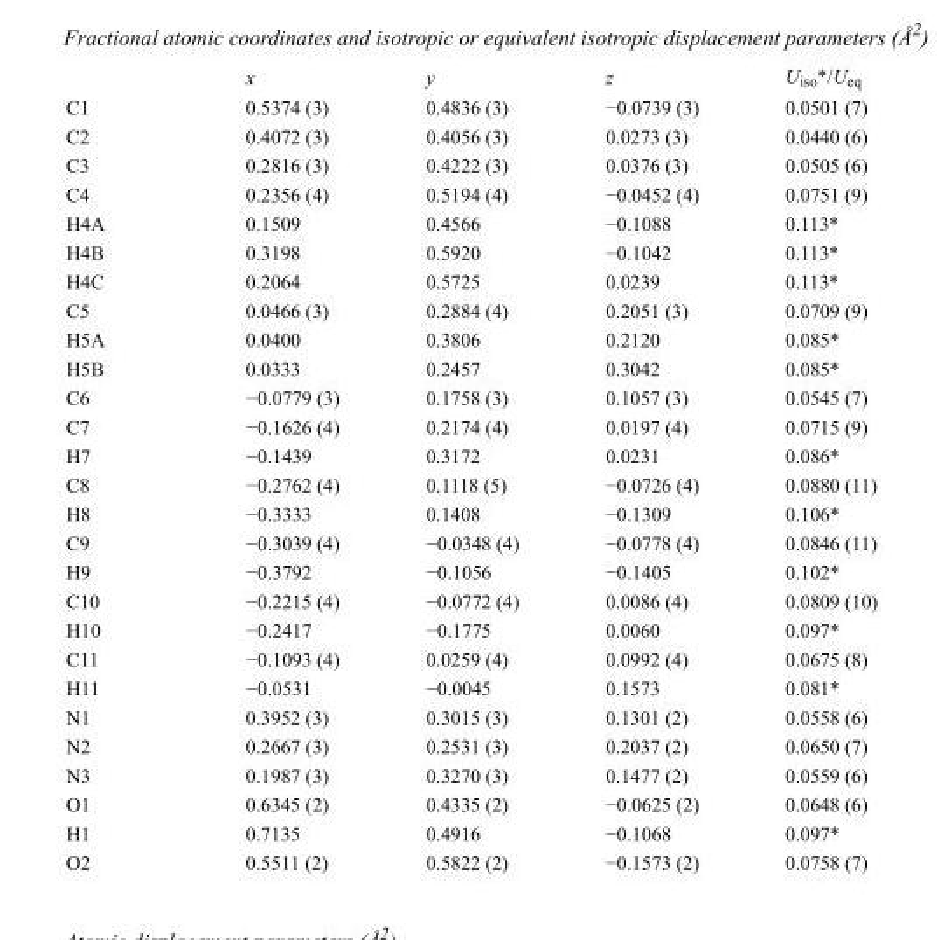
<table><thead><tr><td></td><td>x</td><td>y</td><td>z</td><td>U<sub>iso</sub>*/U<sub>eq</sub></td></tr></thead><tbody><tr><td>C1</td><td>0.5374 (3)</td><td>0.4836 (3)</td><td>−0.0739 (3)</td><td>0.0501 (7)</td></tr><tr><td>C2</td><td>0.4072 (3)</td><td>0.4056 (3)</td><td>0.0273 (3)</td><td>0.0440 (6)</td></tr><tr><td>C3</td><td>0.2816 (3)</td><td>0.4222 (3)</td><td>0.0376 (3)</td><td>0.0505 (6)</td></tr><tr><td>C4</td><td>0.2356 (4)</td><td>0.5194 (4)</td><td>−0.0452 (4)</td><td>0.0751 (9)</td></tr><tr><td>H4A</td><td>0.1509</td><td>0.4566</td><td>−0.1088</td><td>0.113*</td></tr><tr><td>H4B</td><td>0.3198</td><td>0.5920</td><td>−0.1042</td><td>0.113*</td></tr><tr><td>H4C</td><td>0.2064</td><td>0.5725</td><td>0.0239</td><td>0.113*</td></tr><tr><td>C5</td><td>0.0466 (3)</td><td>0.2884 (4)</td><td>0.2051 (3)</td><td>0.0709 (9)</td></tr><tr><td>H5A</td><td>0.0400</td><td>0.3806</td><td>0.2120</td><td>0.085*</td></tr><tr><td>H5B</td><td>0.0333</td><td>0.2457</td><td>0.3042</td><td>0.085*</td></tr><tr><td>C6</td><td>−0.0779 (3)</td><td>0.1758 (3)</td><td>0.1057 (3)</td><td>0.0545 (7)</td></tr><tr><td>C7</td><td>−0.1626 (4)</td><td>0.2174 (4)</td><td>0.0197 (4)</td><td>0.0715 (9)</td></tr><tr><td>H7</td><td>−0.1439</td><td>0.3172</td><td>0.0231</td><td>0.086*</td></tr><tr><td>C8</td><td>−0.2762 (4)</td><td>0.1118 (5)</td><td>−0.0726 (4)</td><td>0.0880 (11)</td></tr><tr><td>H8</td><td>−0.3333</td><td>0.1408</td><td>−0.1309</td><td>0.106*</td></tr><tr><td>C9</td><td>−0.3039 (4)</td><td>−0.0348 (4)</td><td>−0.0778 (4)</td><td>0.0846 (11)</td></tr><tr><td>H9</td><td>−0.3792</td><td>−0.1056</td><td>−0.1405</td><td>0.102*</td></tr><tr><td>C10</td><td>−0.2215 (4)</td><td>−0.0772 (4)</td><td>0.0086 (4)</td><td>0.0809 (10)</td></tr><tr><td>H10</td><td>−0.2417</td><td>−0.1775</td><td>0.0060</td><td>0.097*</td></tr><tr><td>C11</td><td>−0.1093 (4)</td><td>0.0259 (4)</td><td>0.0992 (4)</td><td>0.0675 (8)</td></tr><tr><td>H11</td><td>−0.0531</td><td>−0.0045</td><td>0.1573</td><td>0.081*</td></tr><tr><td>N1</td><td>0.3952 (3)</td><td>0.3015 (3)</td><td>0.1301 (2)</td><td>0.0558 (6)</td></tr><tr><td>N2</td><td>0.2667 (3)</td><td>0.2531 (3)</td><td>0.2037 (2)</td><td>0.0650 (7)</td></tr><tr><td>N3</td><td>0.1987 (3)</td><td>0.3270 (3)</td><td>0.1477 (2)</td><td>0.0559 (6)</td></tr><tr><td>O1</td><td>0.6345 (2)</td><td>0.4335 (2)</td><td>−0.0625 (2)</td><td>0.0648 (6)</td></tr><tr><td>H1</td><td>0.7135</td><td>0.4916</td><td>−0.1068</td><td>0.097*</td></tr><tr><td>O2</td><td>0.5511 (2)</td><td>0.5822 (2)</td><td>−0.1573 (2)</td><td>0.0758 (7)</td></tr></tbody></table>